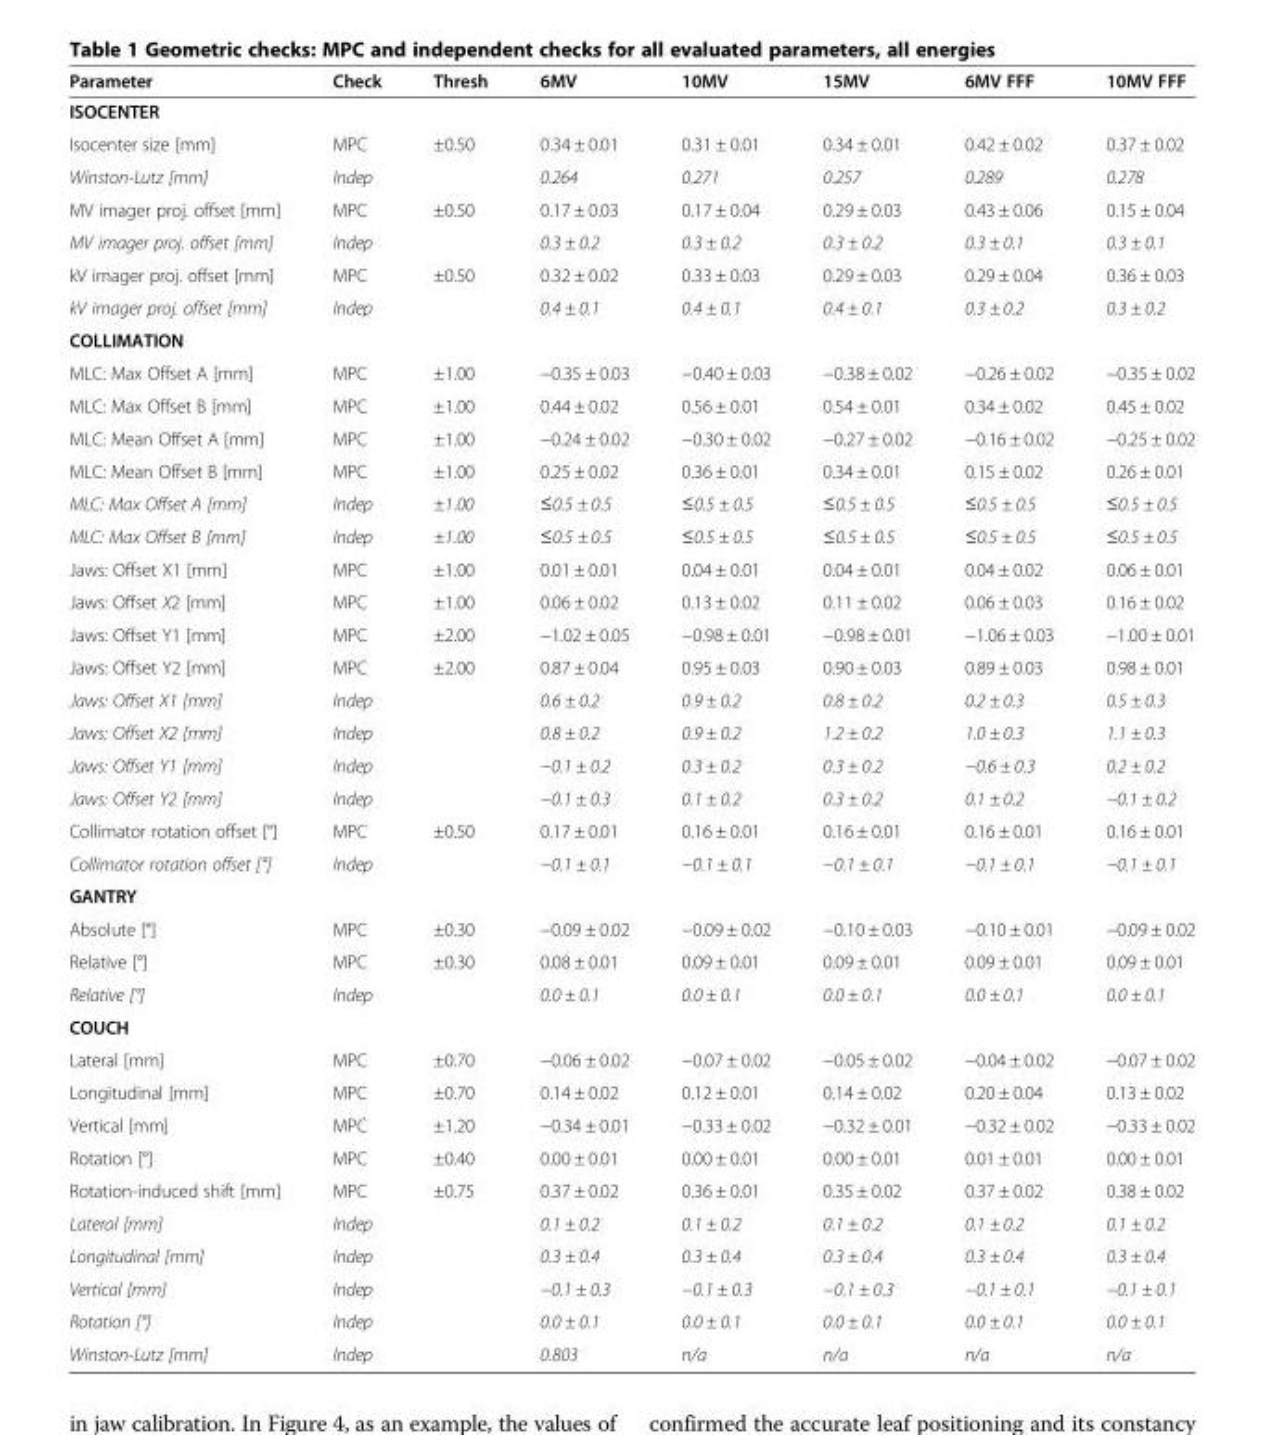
<table><thead><tr><td>Parameter</td><td>Check</td><td>Thresh</td><td>6MV</td><td>10MV</td><td>15MV</td><td>6MV FFF</td><td>10MV FFF</td></tr></thead><tbody><tr><td colspan="8">ISOCENTER</td></tr><tr><td>Isocenter size [mm]</td><td>MPC</td><td>±0.50</td><td>0.34 ± 0.01</td><td>0.31 ± 0.01</td><td>0.34 ± 0.01</td><td>0.42 ± 0.02</td><td>0.37 ± 0.02</td></tr><tr><td>Winston-Lutz [mm]</td><td>Indep</td><td></td><td>0.264</td><td>0.271</td><td>0.257</td><td>0.289</td><td>0.278</td></tr><tr><td>MV imager proj. offset [mm]</td><td>MPC</td><td>±0.50</td><td>0.17 ± 0.03</td><td>0.17 ± 0.04</td><td>0.29 ± 0.03</td><td>0.43 ± 0.06</td><td>0.15 ± 0.04</td></tr><tr><td>MV imager proj. offset [mm]</td><td>Indep</td><td></td><td>0.3 ± 0.2</td><td>0.3 ± 0.2</td><td>0.3 ± 0.2</td><td>0.3 ± 0.1</td><td>0.3 ± 0.1</td></tr><tr><td>kV imager proj. offset [mm]</td><td>MPC</td><td>±0.50</td><td>0.32 ± 0.02</td><td>0.33 ± 0.03</td><td>0.29 ± 0.03</td><td>0.29 ± 0.04</td><td>0.36 ± 0.03</td></tr><tr><td>kV imager proj. offset [mm]</td><td>Indep</td><td></td><td>0.4 ± 0.1</td><td>0.4 ± 0.1</td><td>0.4 ± 0.1</td><td>0.3 ± 0.2</td><td>0.3 ± 0.2</td></tr><tr><td colspan="8">COLLIMATION</td></tr><tr><td>MLC: Max Offset A [mm]</td><td>MPC</td><td>±1.00</td><td>−0.35 ± 0.03</td><td>−0.40 ± 0.03</td><td>−0.38 ± 0.02</td><td>−0.26 ± 0.02</td><td>−0.35 ± 0.02</td></tr><tr><td>MLC: Max Offset B [mm]</td><td>MPC</td><td>±1.00</td><td>0.44 ± 0.02</td><td>0.56 ± 0.01</td><td>0.54 ± 0.01</td><td>0.34 ± 0.02</td><td>0.45 ± 0.02</td></tr><tr><td>MLC: Mean Offset A [mm]</td><td>MPC</td><td>±1.00</td><td>−0.24 ± 0.02</td><td>−0.30 ± 0.02</td><td>−0.27 ± 0.02</td><td>−0.16 ± 0.02</td><td>−0.25 ± 0.02</td></tr><tr><td>MLC: Mean Offset B [mm]</td><td>MPC</td><td>±1.00</td><td>0.25 ± 0.02</td><td>0.36 ± 0.01</td><td>0.34 ± 0.01</td><td>0.15 ± 0.02</td><td>0.26 ± 0.01</td></tr><tr><td>MLC: Max Offset A [mm]</td><td>Indep</td><td>±1.00</td><td>≤0.5 ± 0.5</td><td>≤0.5 ± 0.5</td><td>≤0.5 ± 0.5</td><td>≤0.5 ± 0.5</td><td>≤0.5 ± 0.5</td></tr><tr><td>MLC: Max Offset B [mm]</td><td>Indep</td><td>±1.00</td><td>≤0.5 ± 0.5</td><td>≤0.5 ± 0.5</td><td>≤0.5 ± 0.5</td><td>≤0.5 ± 0.5</td><td>≤0.5 ± 0.5</td></tr><tr><td>Jaws: Offset X1 [mm]</td><td>MPC</td><td>±1.00</td><td>0.01 ± 0.01</td><td>0.04 ± 0.01</td><td>0.04 ± 0.01</td><td>0.04 ± 0.02</td><td>0.06 ± 0.01</td></tr><tr><td>Jaws: Offset X2 [mm]</td><td>MPC</td><td>±1.00</td><td>0.06 ± 0.02</td><td>0.13 ± 0.02</td><td>0.11 ± 0.02</td><td>0.06 ± 0.03</td><td>0.16 ± 0.02</td></tr><tr><td>Jaws: Offset Y1 [mm]</td><td>MPC</td><td>±2.00</td><td>−1.02 ± 0.05</td><td>−0.98 ± 0.01</td><td>−0.98 ± 0.01</td><td>−1.06 ± 0.03</td><td>−1.00 ± 0.01</td></tr><tr><td>Jaws: Offset Y2 [mm]</td><td>MPC</td><td>±2.00</td><td>0.87 ± 0.04</td><td>0.95 ± 0.03</td><td>0.90 ± 0.03</td><td>0.89 ± 0.03</td><td>0.98 ± 0.01</td></tr><tr><td>Jaws: Offset X1 [mm]</td><td>Indep</td><td></td><td>0.6 ± 0.2</td><td>0.9 ± 0.2</td><td>0.8 ± 0.2</td><td>0.2 ± 0.3</td><td>0.5 ± 0.3</td></tr><tr><td>Jaws: Offset X2 [mm]</td><td>Indep</td><td></td><td>0.8 ± 0.2</td><td>0.9 ± 0.2</td><td>1.2 ± 0.2</td><td>1.0 ± 0.3</td><td>1.1 ± 0.3</td></tr><tr><td>Jaws: Offset Y1 [mm]</td><td>Indep</td><td></td><td>−0.1 ± 0.2</td><td>0.3 ± 0.2</td><td>0.3 ± 0.2</td><td>−0.6 ± 0.3</td><td>0.2 ± 0.2</td></tr><tr><td>Jaws: Offset Y2 [mm]</td><td>Indep</td><td></td><td>−0.1 ± 0.3</td><td>0.1 ± 0.2</td><td>0.3 ± 0.2</td><td>0.1 ± 0.2</td><td>−0.1 ± 0.2</td></tr><tr><td>Collimator rotation offset [°]</td><td>MPC</td><td>±0.50</td><td>0.17 ± 0.01</td><td>0.16 ± 0.01</td><td>0.16 ± 0.01</td><td>0.16 ± 0.01</td><td>0.16 ± 0.01</td></tr><tr><td>Collimator rotation offset [°]</td><td>Indep</td><td></td><td>−0.1 ± 0.1</td><td>−0.1 ± 0.1</td><td>−0.1 ± 0.1</td><td>−0.1 ± 0.1</td><td>−0.1 ± 0.1</td></tr><tr><td colspan="8">GANTRY</td></tr><tr><td>Absolute [°]</td><td>MPC</td><td>±0.30</td><td>−0.09 ± 0.02</td><td>−0.09 ± 0.02</td><td>−0.10 ± 0.03</td><td>−0.10 ± 0.01</td><td>−0.09 ± 0.02</td></tr><tr><td>Relative [°]</td><td>MPC</td><td>±0.30</td><td>0.08 ± 0.01</td><td>0.09 ± 0.01</td><td>0.09 ± 0.01</td><td>0.09 ± 0.01</td><td>0.09 ± 0.01</td></tr><tr><td>Relative [°]</td><td>Indep</td><td></td><td>0.0 ± 0.1</td><td>0.0 ± 0.1</td><td>0.0 ± 0.1</td><td>0.0 ± 0.1</td><td>0.0 ± 0.1</td></tr><tr><td colspan="8">COUCH</td></tr><tr><td>Lateral [mm]</td><td>MPC</td><td>±0.70</td><td>−0.06 ± 0.02</td><td>−0.07 ± 0.02</td><td>−0.05 ± 0.02</td><td>−0.04 ± 0.02</td><td>−0.07 ± 0.02</td></tr><tr><td>Longitudinal [mm]</td><td>MPC</td><td>±0.70</td><td>0.14 ± 0.02</td><td>0.12 ± 0.01</td><td>0.14 ± 0.02</td><td>0.20 ± 0.04</td><td>0.13 ± 0.02</td></tr><tr><td>Vertical [mm]</td><td>MPC</td><td>±1.20</td><td>−0.34 ± 0.01</td><td>−0.33 ± 0.02</td><td>−0.32 ± 0.01</td><td>−0.32 ± 0.02</td><td>−0.33 ± 0.02</td></tr><tr><td>Rotation [°]</td><td>MPC</td><td>±0.40</td><td>0.00 ± 0.01</td><td>0.00 ± 0.01</td><td>0.00 ± 0.01</td><td>0.01 ± 0.01</td><td>0.00 ± 0.01</td></tr><tr><td>Rotation-induced shift [mm]</td><td>MPC</td><td>±0.75</td><td>0.37 ± 0.02</td><td>0.36 ± 0.01</td><td>0.35 ± 0.02</td><td>0.37 ± 0.02</td><td>0.38 ± 0.02</td></tr><tr><td>Lateral [mm]</td><td>Indep</td><td></td><td>0.1 ± 0.2</td><td>0.1 ± 0.2</td><td>0.1 ± 0.2</td><td>0.1 ± 0.2</td><td>0.1 ± 0.2</td></tr><tr><td>Longitudinal [mm]</td><td>Indep</td><td></td><td>0.3 ± 0.4</td><td>0.3 ± 0.4</td><td>0.3 ± 0.4</td><td>0.3 ± 0.4</td><td>0.3 ± 0.4</td></tr><tr><td>Vertical [mm]</td><td>Indep</td><td></td><td>−0.1 ± 0.3</td><td>−0.1 ± 0.3</td><td>−0.1 ± 0.3</td><td>−0.1 ± 0.1</td><td>−0.1 ± 0.1</td></tr><tr><td>Rotation [°]</td><td>Indep</td><td></td><td>0.0 ± 0.1</td><td>0.0 ± 0.1</td><td>0.0 ± 0.1</td><td>0.0 ± 0.1</td><td>0.0 ± 0.1</td></tr><tr><td>Winston-Lutz [mm]</td><td>Indep</td><td></td><td>0.803</td><td>n/a</td><td>n/a</td><td>n/a</td><td>n/a</td></tr></tbody></table>